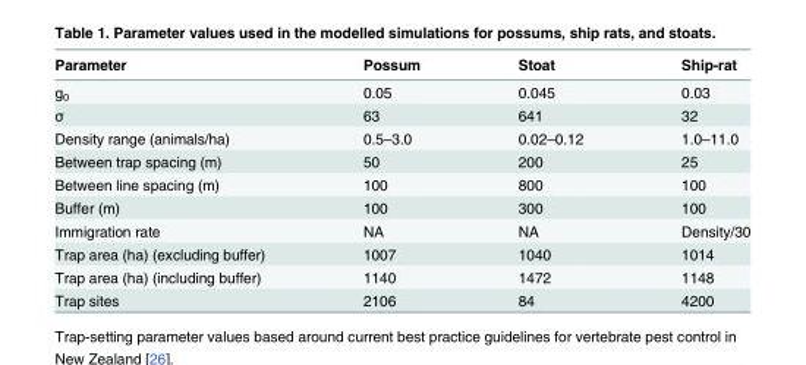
<table><thead><tr><td>Parameter</td><td>Possum</td><td>Stoat</td><td>Ship-rat</td></tr></thead><tbody><tr><td>g<sub>0</sub></td><td>0.05</td><td>0.045</td><td>0.03</td></tr><tr><td>σ</td><td>63</td><td>641</td><td>32</td></tr><tr><td>Density range (animals/ha)</td><td>0.5–3.0</td><td>0.02–0.12</td><td>1.0–11.0</td></tr><tr><td>Between trap spacing (m)</td><td>50</td><td>200</td><td>25</td></tr><tr><td>Between line spacing (m)</td><td>100</td><td>800</td><td>100</td></tr><tr><td>Buffer (m)</td><td>100</td><td>300</td><td>100</td></tr><tr><td>Immigration rate</td><td>NA</td><td>NA</td><td>Density/30</td></tr><tr><td>Trap area (ha) (excluding buffer)</td><td>1007</td><td>1040</td><td>1014</td></tr><tr><td>Trap area (ha) (including buffer)</td><td>1140</td><td>1472</td><td>1148</td></tr><tr><td>Trap sites</td><td>2106</td><td>84</td><td>4200</td></tr></tbody></table>